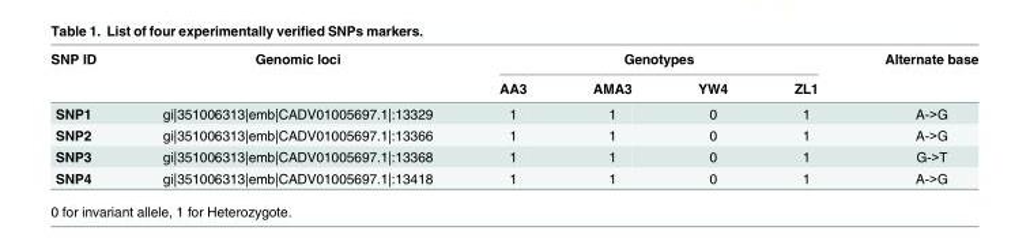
<table><thead><tr><td rowspan="2">SNP ID</td><td rowspan="2">Genomic loci</td><td colspan="4">Genotypes</td><td rowspan="2">Alternate base</td></tr><tr><td>AA3</td><td>AMA3</td><td>YW4</td><td>ZL1</td></tr></thead><tbody><tr><td>SNP1</td><td>gi|351006313|emb|CADV01005697.1|:13329</td><td>1</td><td>1</td><td>0</td><td>1</td><td>A-&gt;G</td></tr><tr><td>SNP2</td><td>gi|351006313|emb|CADV01005697.1|:13366</td><td>1</td><td>1</td><td>0</td><td>1</td><td>A-&gt;G</td></tr><tr><td>SNP3</td><td>gi|351006313|emb|CADV01005697.1|:13368</td><td>1</td><td>1</td><td>0</td><td>1</td><td>G-&gt;T</td></tr><tr><td>SNP4</td><td>gi|351006313|emb|CADV01005697.1|:13418</td><td>1</td><td>1</td><td>0</td><td>1</td><td>A-&gt;G</td></tr></tbody></table>